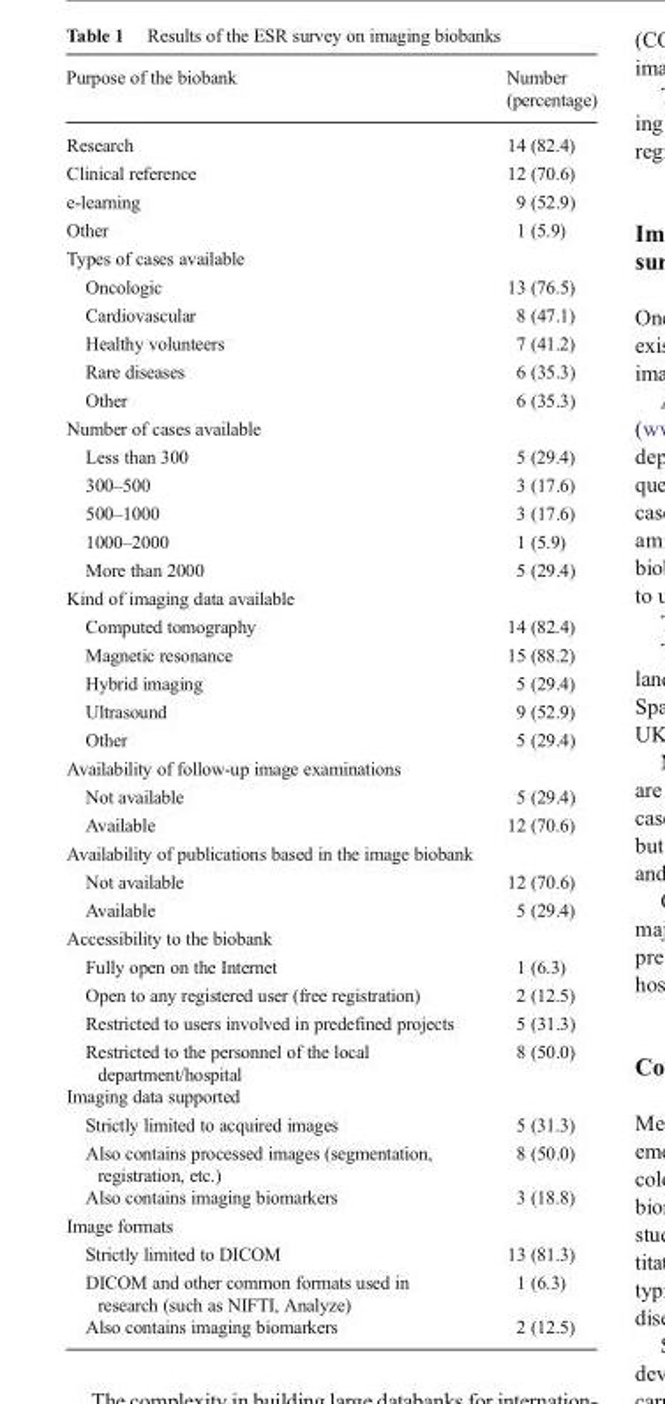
<table><thead><tr><td>Purpose of the biobank</td><td>Number (percentage)</td></tr></thead><tbody><tr><td>Research</td><td>14 (82.4)</td></tr><tr><td>Clinical reference</td><td>12 (70.6)</td></tr><tr><td>e-learning</td><td>9 (52.9)</td></tr><tr><td>Other</td><td>1 (5.9)</td></tr><tr><td colspan="2">Types of cases available</td></tr><tr><td>Oncologic</td><td>13 (76.5)</td></tr><tr><td>Cardiovascular</td><td>8 (47.1)</td></tr><tr><td>Healthy volunteers</td><td>7 (41.2)</td></tr><tr><td>Rare diseases</td><td>6 (35.3)</td></tr><tr><td>Other</td><td>6 (35.3)</td></tr><tr><td colspan="2">Number of cases available</td></tr><tr><td>Less than 300</td><td>5 (29.4)</td></tr><tr><td>300–500</td><td>3 (17.6)</td></tr><tr><td>500–1000</td><td>3 (17.6)</td></tr><tr><td>1000–2000</td><td>1 (5.9)</td></tr><tr><td>More than 2000</td><td>5 (29.4)</td></tr><tr><td colspan="2">Kind of imaging data available</td></tr><tr><td>Computed tomography</td><td>14 (82.4)</td></tr><tr><td>Magnetic resonance</td><td>15 (88.2)</td></tr><tr><td>Hybrid imaging</td><td>5 (29.4)</td></tr><tr><td>Ultrasound</td><td>9 (52.9)</td></tr><tr><td>Other</td><td>5 (29.4)</td></tr><tr><td colspan="2">Availability of follow-up image examinations</td></tr><tr><td>Not available</td><td>5 (29.4)</td></tr><tr><td>Available</td><td>12 (70.6)</td></tr><tr><td colspan="2">Availability of publications based in the image biobank</td></tr><tr><td>Not available</td><td>12 (70.6)</td></tr><tr><td>Available</td><td>5 (29.4)</td></tr><tr><td colspan="2">Accessibility to the biobank</td></tr><tr><td>Fully open on the Internet</td><td>1 (6.3)</td></tr><tr><td>Open to any registered user (free registration)</td><td>2 (12.5)</td></tr><tr><td>Restricted to users involved in predefined projects</td><td>5 (31.3)</td></tr><tr><td>Restricted to the personnel of the local department/hospital</td><td>8 (50.0)</td></tr><tr><td colspan="2">Imaging data supported</td></tr><tr><td>Strictly limited to acquired images</td><td>5 (31.3)</td></tr><tr><td>Also contains processed images (segmentation, registration, etc.)</td><td>8 (50.0)</td></tr><tr><td>Also contains imaging biomarkers</td><td>3 (18.8)</td></tr><tr><td colspan="2">Image formats</td></tr><tr><td>Strictly limited to DICOM</td><td>13 (81.3)</td></tr><tr><td>DICOM and other common formats used in research (such as NIFTI, Analyze)</td><td>1 (6.3)</td></tr><tr><td>Also contains imaging biomarkers</td><td>2 (12.5)</td></tr></tbody></table>